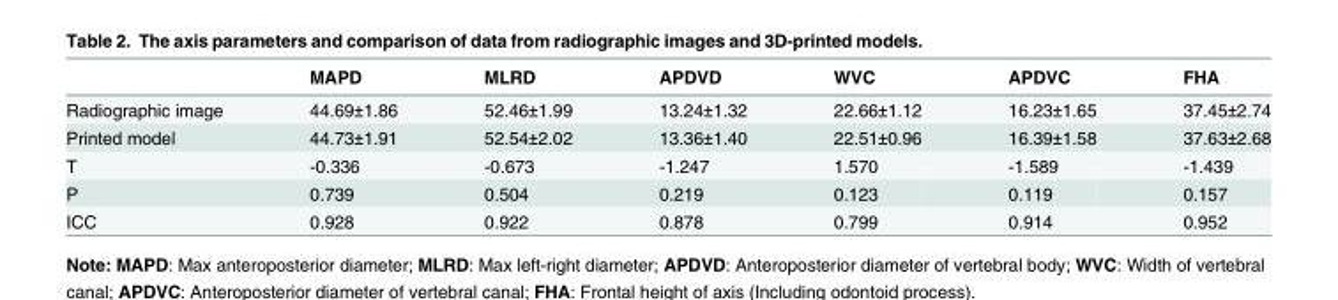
<table><thead><tr><td></td><td>MAPD</td><td>MLRD</td><td>APDVD</td><td>WVC</td><td>APDVC</td><td>FHA</td></tr></thead><tbody><tr><td>Radiographic image</td><td>44.69±1.86</td><td>52.46±1.99</td><td>13.24±1.32</td><td>22.66±1.12</td><td>16.23±1.65</td><td>37.45±2.74</td></tr><tr><td>Printed model</td><td>44.73±1.91</td><td>52.54±2.02</td><td>13.36±1.40</td><td>22.51±0.96</td><td>16.39±1.58</td><td>37.63±2.68</td></tr><tr><td>T</td><td>-0.336</td><td>-0.673</td><td>-1.247</td><td>1.570</td><td>-1.589</td><td>-1.439</td></tr><tr><td>P</td><td>0.739</td><td>0.504</td><td>0.219</td><td>0.123</td><td>0.119</td><td>0.157</td></tr><tr><td>ICC</td><td>0.928</td><td>0.922</td><td>0.878</td><td>0.799</td><td>0.914</td><td>0.952</td></tr></tbody></table>